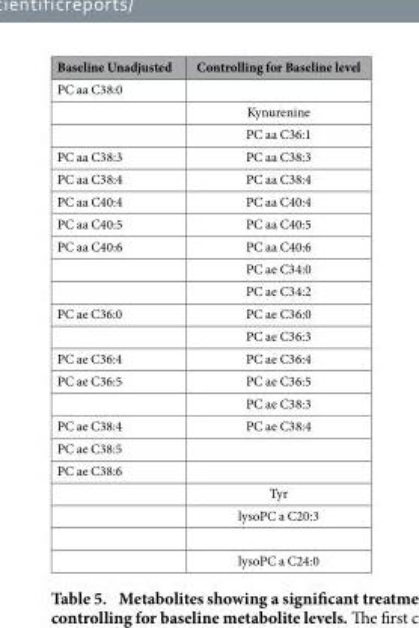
<table><thead><tr><td>Baseline Unadjusted</td><td>Controlling for Baseline level</td></tr></thead><tbody><tr><td colspan="2">PC aa C38:0</td></tr><tr><td></td><td>Kynurenine</td></tr><tr><td></td><td>PC aa C36:1</td></tr><tr><td>PC aa C38:3</td><td>PC aa C38:3</td></tr><tr><td>PC aa C38:4</td><td>PC aa C38:4</td></tr><tr><td>PC aa C40:4</td><td>PC aa C40:4</td></tr><tr><td>PC aa C40:5</td><td>PC aa C40:5</td></tr><tr><td rowspan="3">PC aa C40:6</td><td>PC aa C40:6</td></tr><tr><td>PC ae C34:0</td></tr><tr><td>PC ae C34:2</td></tr><tr><td rowspan="2">PC ae C36:0</td><td>PC ae C36:0</td></tr><tr><td>PC ae C36:3</td></tr><tr><td>PC ae C36:4</td><td>PC ae C36:4</td></tr><tr><td rowspan="2">PC ae C36:5</td><td>PC ae C36:5</td></tr><tr><td>PC ae C38:3</td></tr><tr><td>PC ae C38:4</td><td>PC ae C38:4</td></tr><tr><td colspan="2">PC ae C38:5</td></tr><tr><td colspan="2">PC ae C38:6</td></tr><tr><td></td><td>Tyr</td></tr><tr><td></td><td>lysoPC a C20:3</td></tr><tr><td></td><td>lysoPC a C24:0</td></tr></tbody></table>